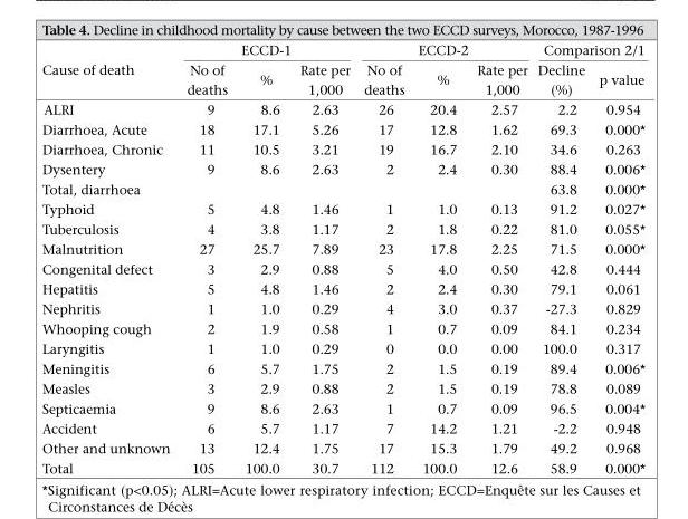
<table><thead><tr><td rowspan="2">Cause of death</td><td colspan="3">ECCD-1</td><td colspan="3">ECCD-2</td><td colspan="2">Comparison 2/1</td></tr><tr><td>No of deaths</td><td>%</td><td>Rate per 1,000</td><td>No of deaths</td><td>%</td><td>Rate per 1,000</td><td>Decline (%)</td><td>p value</td></tr></thead><tbody><tr><td>ALRI</td><td>9</td><td>8.6</td><td>2.63</td><td>26</td><td>20.4</td><td>2.57</td><td>2.2</td><td>0.954</td></tr><tr><td>Diarrhoea, Acute</td><td>18</td><td>17.1</td><td>5.26</td><td>17</td><td>12.8</td><td>1.62</td><td>69.3</td><td>0.000*</td></tr><tr><td>Diarrhoea, Chronic</td><td>11</td><td>10.5</td><td>3.21</td><td>19</td><td>16.7</td><td>2.10</td><td>34.6</td><td>0.263</td></tr><tr><td>Dysentery</td><td>9</td><td>8.6</td><td>2.63</td><td>2</td><td>2.4</td><td>0.30</td><td>88.4</td><td>0.006*</td></tr><tr><td>Total, diarrhoea</td><td></td><td></td><td></td><td></td><td></td><td></td><td>63.8</td><td>0.000*</td></tr><tr><td>Typhoid</td><td>5</td><td>4.8</td><td>1.46</td><td>1</td><td>1.0</td><td>0.13</td><td>91.2</td><td>0.027*</td></tr><tr><td>Tuberculosis</td><td>4</td><td>3.8</td><td>1.17</td><td>2</td><td>1.8</td><td>0.22</td><td>81.0</td><td>0.055*</td></tr><tr><td>Malnutrition</td><td>27</td><td>25.7</td><td>7.89</td><td>23</td><td>17.8</td><td>2.25</td><td>71.5</td><td>0.000*</td></tr><tr><td>Congenital defect</td><td>3</td><td>2.9</td><td>0.88</td><td>5</td><td>4.0</td><td>0.50</td><td>42.8</td><td>0.444</td></tr><tr><td>Hepatitis</td><td>5</td><td>4.8</td><td>1.46</td><td>2</td><td>2.4</td><td>0.30</td><td>79.1</td><td>0.061</td></tr><tr><td>Nephritis</td><td>1</td><td>1.0</td><td>0.29</td><td>4</td><td>3.0</td><td>0.37</td><td>-27.3</td><td>0.829</td></tr><tr><td>Whooping cough</td><td>2</td><td>1.9</td><td>0.58</td><td>1</td><td>0.7</td><td>0.09</td><td>84.1</td><td>0.234</td></tr><tr><td>Laryngitis</td><td>1</td><td>1.0</td><td>0.29</td><td>0</td><td>0.0</td><td>0.00</td><td>100.0</td><td>0.317</td></tr><tr><td>Meningitis</td><td>6</td><td>5.7</td><td>1.75</td><td>2</td><td>1.5</td><td>0.19</td><td>89.4</td><td>0.006*</td></tr><tr><td>Measles</td><td>3</td><td>2.9</td><td>0.88</td><td>2</td><td>1.5</td><td>0.19</td><td>78.8</td><td>0.089</td></tr><tr><td>Septicaemia</td><td>9</td><td>8.6</td><td>2.63</td><td>1</td><td>0.7</td><td>0.09</td><td>96.5</td><td>0.004*</td></tr><tr><td>Accident</td><td>6</td><td>5.7</td><td>1.17</td><td>7</td><td>14.2</td><td>1.21</td><td>-2.2</td><td>0.948</td></tr><tr><td>Other and unknown</td><td>13</td><td>12.4</td><td>1.75</td><td>17</td><td>15.3</td><td>1.79</td><td>49.2</td><td>0.968</td></tr><tr><td>Total</td><td>105</td><td>100.0</td><td>30.7</td><td>112</td><td>100.0</td><td>12.6</td><td>58.9</td><td>0.000*</td></tr></tbody></table>